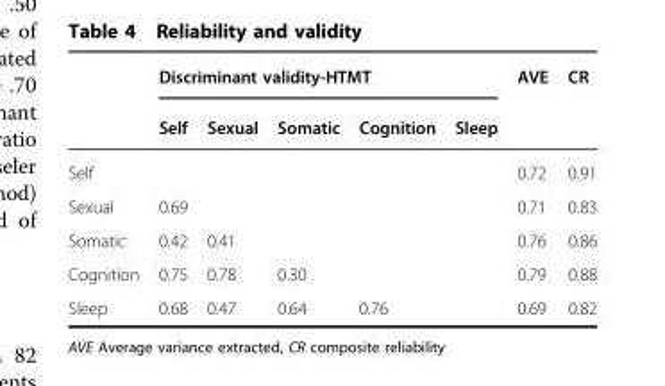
<table><thead><tr><td rowspan="2"></td><td colspan="5">Discriminant validity-HTMT</td><td rowspan="2">AVE</td><td rowspan="2">CR</td></tr><tr><td>Self</td><td>Sexual</td><td>Somatic</td><td>Cognition</td><td>Sleep</td></tr></thead><tbody><tr><td>Self</td><td></td><td></td><td></td><td></td><td></td><td>0.72</td><td>0.91</td></tr><tr><td>Sexual</td><td>0.69</td><td></td><td></td><td></td><td></td><td>0.71</td><td>0.83</td></tr><tr><td>Somatic</td><td>0.42</td><td>0.41</td><td></td><td></td><td></td><td>0.76</td><td>0.86</td></tr><tr><td>Cognition</td><td>0.75</td><td>0.78</td><td>0.30</td><td></td><td></td><td>0.79</td><td>0.88</td></tr><tr><td>Sleep</td><td>0.68</td><td>0.47</td><td>0.64</td><td>0.76</td><td></td><td>0.69</td><td>0.82</td></tr></tbody></table>